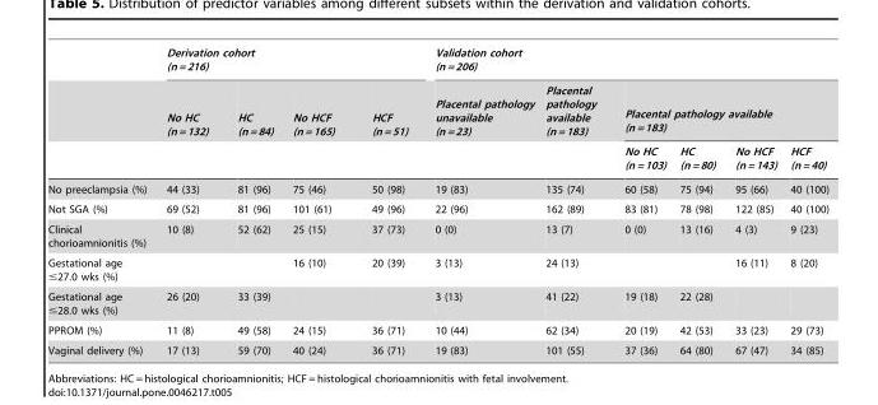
<table><thead><tr><td rowspan="3"></td><td colspan="4">Derivation cohort (n = 216)</td><td colspan="6">Validation cohort (n = 206)</td></tr><tr><td rowspan="2">No HC (n = 132)</td><td rowspan="2">HC (n = 84)</td><td rowspan="2">No HCF (n = 165)</td><td rowspan="2">HCF (n = 51)</td><td rowspan="2">Placental pathology unavailable (n = 23)</td><td rowspan="2">Placental pathology available (n = 183)</td><td colspan="4">Placental pathology available (n = 183)</td></tr><tr><td>No HC (n = 103)</td><td>HC (n = 80)</td><td>No HCF (n = 143)</td><td>HCF (n = 40)</td></tr></thead><tbody><tr><td>No preeclampsia (%)</td><td>44 (33)</td><td>81 (96)</td><td>75 (46)</td><td>50 (98)</td><td>19 (83)</td><td>135 (74)</td><td>60 (58)</td><td>75 (94)</td><td>95 (66)</td><td>40 (100)</td></tr><tr><td>Not SGA (%)</td><td>69 (52)</td><td>81 (96)</td><td>101 (61)</td><td>49 (96)</td><td>22 (96)</td><td>162 (89)</td><td>83 (81)</td><td>78 (98)</td><td>122 (85)</td><td>40 (100)</td></tr><tr><td>Clinical chorioamnionitis (%)</td><td>10 (8)</td><td>52 (62)</td><td>25 (15)</td><td>37 (73)</td><td>0 (0)</td><td>13 (7)</td><td>0 (0)</td><td>13 (16)</td><td>4 (3)</td><td>9 (23)</td></tr><tr><td>Gestational age ≤27.0 wks (%)</td><td></td><td></td><td>16 (10)</td><td>20 (39)</td><td>3 (13)</td><td>24 (13)</td><td></td><td></td><td>16 (11)</td><td>8 (20)</td></tr><tr><td>Gestational age ≤28.0 wks (%)</td><td>26 (20)</td><td>33 (39)</td><td></td><td></td><td>3 (13)</td><td>41 (22)</td><td>19 (18)</td><td>22 (28)</td><td></td><td></td></tr><tr><td>PPROM (%)</td><td>11 (8)</td><td>49 (58)</td><td>24 (15)</td><td>36 (71)</td><td>10 (44)</td><td>62 (34)</td><td>20 (19)</td><td>42 (53)</td><td>33 (23)</td><td>29 (73)</td></tr><tr><td>Vaginal delivery (%)</td><td>17 (13)</td><td>59 (70)</td><td>40 (24)</td><td>36 (71)</td><td>19 (83)</td><td>101 (55)</td><td>37 (36)</td><td>64 (80)</td><td>67 (47)</td><td>34 (85)</td></tr></tbody></table>